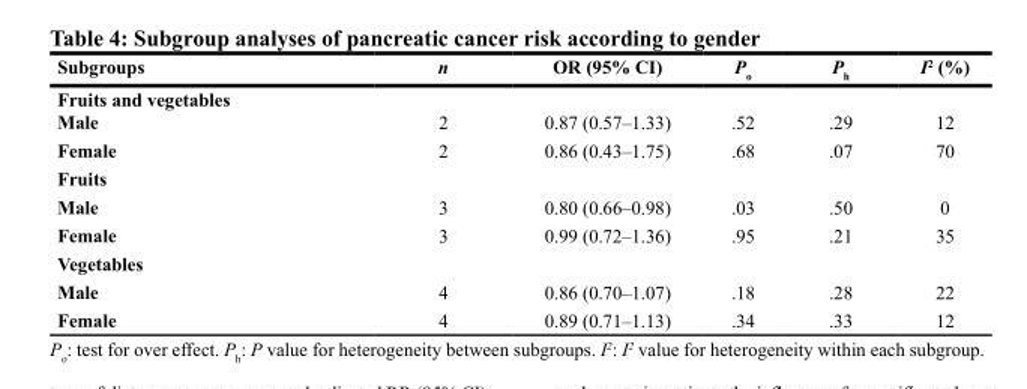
<table><thead><tr><td>Subgroups</td><td>n</td><td>OR (95% CI)</td><td>P<sub>o</sub></td><td>P<sub>h</sub></td><td>I<sup>2</sup> (%)</td></tr></thead><tbody><tr><td>Fruits and vegetables Male</td><td>2</td><td>0.87 (0.57–1.33)</td><td>.52</td><td>.29</td><td>12</td></tr><tr><td>Female</td><td>2</td><td>0.86 (0.43–1.75)</td><td>.68</td><td>.07</td><td>70</td></tr><tr><td colspan="6">Fruits</td></tr><tr><td>Male</td><td>3</td><td>0.80 (0.66–0.98)</td><td>.03</td><td>.50</td><td>0</td></tr><tr><td>Female</td><td>3</td><td>0.99 (0.72–1.36)</td><td>.95</td><td>.21</td><td>35</td></tr><tr><td colspan="6">Vegetables</td></tr><tr><td>Male</td><td>4</td><td>0.86 (0.70–1.07)</td><td>.18</td><td>.28</td><td>22</td></tr><tr><td>Female</td><td>4</td><td>0.89 (0.71–1.13)</td><td>.34</td><td>.33</td><td>12</td></tr></tbody></table>